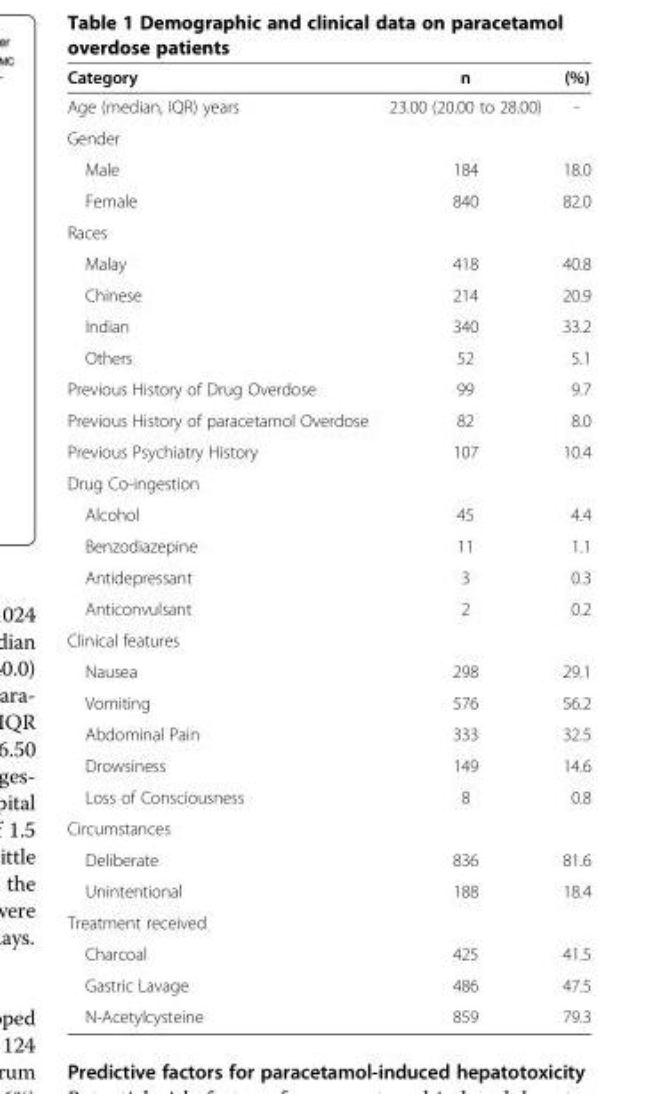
<table><thead><tr><td>Category</td><td>n</td><td>(%)</td></tr></thead><tbody><tr><td>Age (median, IQR) years</td><td>23.00 (20.00 to 28.00)</td><td>-</td></tr><tr><td colspan="3">Gender</td></tr><tr><td>Male</td><td>184</td><td>18.0</td></tr><tr><td>Female</td><td>840</td><td>82.0</td></tr><tr><td colspan="3">Races</td></tr><tr><td>Malay</td><td>418</td><td>40.8</td></tr><tr><td>Chinese</td><td>214</td><td>20.9</td></tr><tr><td>Indian</td><td>340</td><td>33.2</td></tr><tr><td>Others</td><td>52</td><td>5.1</td></tr><tr><td>Previous History of Drug Overdose</td><td>99</td><td>9.7</td></tr><tr><td>Previous History of paracetamol Overdose</td><td>82</td><td>8.0</td></tr><tr><td>Previous Psychiatry History</td><td>107</td><td>10.4</td></tr><tr><td colspan="3">Drug Co-ingestion</td></tr><tr><td>Alcohol</td><td>45</td><td>4.4</td></tr><tr><td>Benzodiazepine</td><td>11</td><td>1.1</td></tr><tr><td>Antidepressant</td><td>3</td><td>0.3</td></tr><tr><td>Anticonvulsant</td><td>2</td><td>0.2</td></tr><tr><td colspan="3">Clinical features</td></tr><tr><td>Nausea</td><td>298</td><td>29.1</td></tr><tr><td>Vomiting</td><td>576</td><td>56.2</td></tr><tr><td>Abdominal Pain</td><td>333</td><td>32.5</td></tr><tr><td>Drowsiness</td><td>149</td><td>14.6</td></tr><tr><td>Loss of Consciousness</td><td>8</td><td>0.8</td></tr><tr><td colspan="3">Circumstances</td></tr><tr><td>Deliberate</td><td>836</td><td>81.6</td></tr><tr><td>Unintentional</td><td>188</td><td>18.4</td></tr><tr><td colspan="3">Treatment received</td></tr><tr><td>Charcoal</td><td>425</td><td>41.5</td></tr><tr><td>Gastric Lavage</td><td>486</td><td>47.5</td></tr><tr><td>N-Acetylcysteine</td><td>859</td><td>79.3</td></tr></tbody></table>